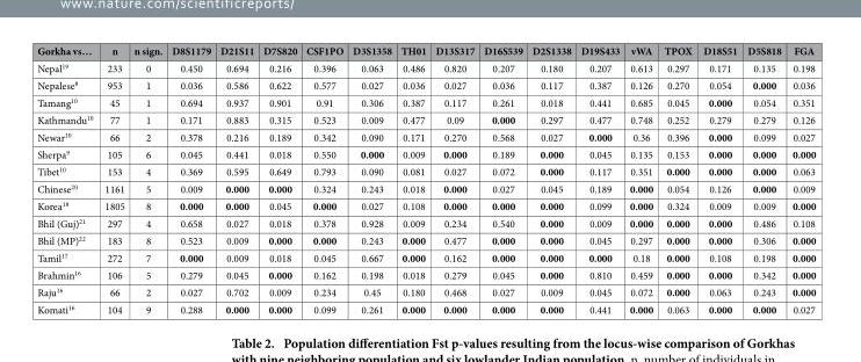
<table><thead><tr><td>Gorkha vs…</td><td>n</td><td>n sign.</td><td>D8S1179</td><td>D21S11</td><td>D7S820</td><td>CSF1PO</td><td>D3S1358</td><td>TH01</td><td>D13S317</td><td>D16S539</td><td>D2S1338</td><td>D19S433</td><td>vWA</td><td>TPOX</td><td>D18S51</td><td>D5S818</td><td>FGA</td></tr></thead><tbody><tr><td>Nepal<sup>19</sup></td><td>233</td><td>0</td><td>0.450</td><td>0.694</td><td>0.216</td><td>0.396</td><td>0.063</td><td>0.486</td><td>0.820</td><td>0.207</td><td>0.180</td><td>0.207</td><td>0.613</td><td>0.297</td><td>0.171</td><td>0.135</td><td>0.198</td></tr><tr><td>Nepalese<sup>8</sup></td><td>953</td><td>1</td><td>0.036</td><td>0.586</td><td>0.622</td><td>0.577</td><td>0.027</td><td>0.036</td><td>0.027</td><td>0.036</td><td>0.117</td><td>0.387</td><td>0.126</td><td>0.270</td><td>0.054</td><td>0.000</td><td>0.036</td></tr><tr><td>Tamang<sup>10</sup></td><td>45</td><td>1</td><td>0.694</td><td>0.937</td><td>0.901</td><td>0.91</td><td>0.306</td><td>0.387</td><td>0.117</td><td>0.261</td><td>0.018</td><td>0.441</td><td>0.685</td><td>0.045</td><td>0.000</td><td>0.054</td><td>0.351</td></tr><tr><td>Kathmandu<sup>10</sup></td><td>77</td><td>1</td><td>0.171</td><td>0.883</td><td>0.315</td><td>0.523</td><td>0.009</td><td>0.477</td><td>0.09</td><td>0.000</td><td>0.297</td><td>0.477</td><td>0.748</td><td>0.252</td><td>0.279</td><td>0.279</td><td>0.126</td></tr><tr><td>Newar<sup>10</sup></td><td>66</td><td>2</td><td>0.378</td><td>0.216</td><td>0.189</td><td>0.342</td><td>0.090</td><td>0.171</td><td>0.270</td><td>0.568</td><td>0.027</td><td>0.000</td><td>0.36</td><td>0.396</td><td>0.000</td><td>0.099</td><td>0.027</td></tr><tr><td>Sherpa<sup>9</sup></td><td>105</td><td>6</td><td>0.045</td><td>0.441</td><td>0.018</td><td>0.550</td><td>0.000</td><td>0.009</td><td>0.000</td><td>0.189</td><td>0.000</td><td>0.045</td><td>0.135</td><td>0.153</td><td>0.000</td><td>0.000</td><td>0.000</td></tr><tr><td>Tibet<sup>10</sup></td><td>153</td><td>4</td><td>0.369</td><td>0.595</td><td>0.649</td><td>0.793</td><td>0.090</td><td>0.081</td><td>0.027</td><td>0.072</td><td>0.000</td><td>0.117</td><td>0.351</td><td>0.000</td><td>0.000</td><td>0.000</td><td>0.063</td></tr><tr><td>Chinese<sup>20</sup></td><td>1161</td><td>5</td><td>0.009</td><td>0.000</td><td>0.000</td><td>0.324</td><td>0.243</td><td>0.018</td><td>0.000</td><td>0.027</td><td>0.045</td><td>0.189</td><td>0.000</td><td>0.054</td><td>0.126</td><td>0.000</td><td>0.009</td></tr><tr><td>Korea<sup>18</sup></td><td>1805</td><td>8</td><td>0.000</td><td>0.000</td><td>0.045</td><td>0.000</td><td>0.027</td><td>0.108</td><td>0.000</td><td>0.000</td><td>0.000</td><td>0.099</td><td>0.000</td><td>0.324</td><td>0.009</td><td>0.009</td><td>0.000</td></tr><tr><td>Bhil (Guj)<sup>21</sup></td><td>297</td><td>4</td><td>0.658</td><td>0.027</td><td>0.018</td><td>0.378</td><td>0.928</td><td>0.009</td><td>0.234</td><td>0.540</td><td>0.000</td><td>0.009</td><td>0.000</td><td>0.000</td><td>0.000</td><td>0.486</td><td>0.108</td></tr><tr><td>Bhil (MP)<sup>22</sup></td><td>183</td><td>8</td><td>0.523</td><td>0.009</td><td>0.000</td><td>0.000</td><td>0.243</td><td>0.000</td><td>0.477</td><td>0.000</td><td>0.000</td><td>0.045</td><td>0.297</td><td>0.000</td><td>0.000</td><td>0.306</td><td>0.000</td></tr><tr><td>Tamil<sup>17</sup></td><td>272</td><td>7</td><td>0.000</td><td>0.009</td><td>0.018</td><td>0.045</td><td>0.667</td><td>0.000</td><td>0.162</td><td>0.000</td><td>0.000</td><td>0.000</td><td>0.18</td><td>0.000</td><td>0.108</td><td>0.198</td><td>0.000</td></tr><tr><td>Brahmin<sup>16</sup></td><td>106</td><td>5</td><td>0.279</td><td>0.045</td><td>0.000</td><td>0.162</td><td>0.198</td><td>0.018</td><td>0.279</td><td>0.045</td><td>0.000</td><td>0.810</td><td>0.459</td><td>0.000</td><td>0.000</td><td>0.342</td><td>0.000</td></tr><tr><td>Raju<sup>16</sup></td><td>66</td><td>2</td><td>0.027</td><td>0.702</td><td>0.009</td><td>0.234</td><td>0.45</td><td>0.180</td><td>0.468</td><td>0.027</td><td>0.009</td><td>0.045</td><td>0.072</td><td>0.000</td><td>0.063</td><td>0.243</td><td>0.000</td></tr><tr><td>Komati<sup>16</sup></td><td>104</td><td>9</td><td>0.288</td><td>0.000</td><td>0.000</td><td>0.099</td><td>0.261</td><td>0.000</td><td>0.000</td><td>0.000</td><td>0.000</td><td>0.441</td><td>0.000</td><td>0.063</td><td>0.000</td><td>0.000</td><td>0.027</td></tr></tbody></table>